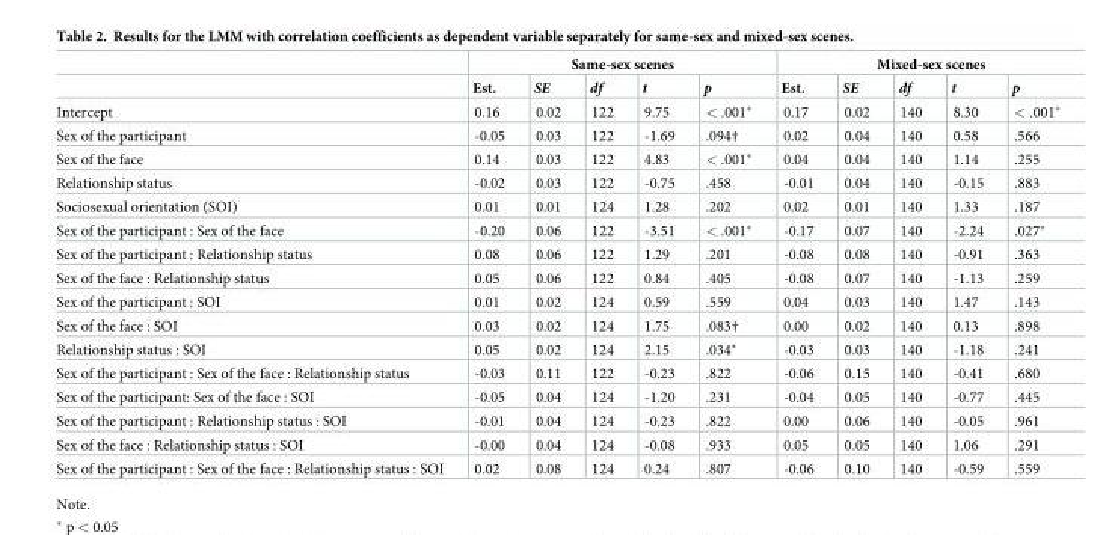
<table><thead><tr><td rowspan="2"></td><td colspan="5">Same-sex scenes</td><td colspan="5">Mixed-sex scenes</td></tr><tr><td>Est.</td><td>SE</td><td>df</td><td>t</td><td>p</td><td>Est.</td><td>SE</td><td>df</td><td>t</td><td>p</td></tr></thead><tbody><tr><td>Intercept</td><td>0.16</td><td>0.02</td><td>122</td><td>9.75</td><td>&lt; .001*</td><td>0.17</td><td>0.02</td><td>140</td><td>8.30</td><td>&lt; .001*</td></tr><tr><td>Sex of the participant</td><td>-0.05</td><td>0.03</td><td>122</td><td>-1.69</td><td>.094†</td><td>0.02</td><td>0.04</td><td>140</td><td>0.58</td><td>.566</td></tr><tr><td>Sex of the face</td><td>0.14</td><td>0.03</td><td>122</td><td>4.83</td><td>&lt; .001*</td><td>0.04</td><td>0.04</td><td>140</td><td>1.14</td><td>.255</td></tr><tr><td>Relationship status</td><td>-0.02</td><td>0.03</td><td>122</td><td>-0.75</td><td>.458</td><td>-0.01</td><td>0.04</td><td>140</td><td>-0.15</td><td>.883</td></tr><tr><td>Sociosexual orientation (SOI)</td><td>0.01</td><td>0.01</td><td>124</td><td>1.28</td><td>.202</td><td>0.02</td><td>0.01</td><td>140</td><td>1.33</td><td>.187</td></tr><tr><td>Sex of the participant : Sex of the face</td><td>-0.20</td><td>0.06</td><td>122</td><td>-3.51</td><td>&lt; .001*</td><td>-0.17</td><td>0.07</td><td>140</td><td>-2.24</td><td>.027*</td></tr><tr><td>Sex of the participant : Relationship status</td><td>0.08</td><td>0.06</td><td>122</td><td>1.29</td><td>.201</td><td>-0.08</td><td>0.08</td><td>140</td><td>-0.91</td><td>.363</td></tr><tr><td>Sex of the face : Relationship status</td><td>0.05</td><td>0.06</td><td>122</td><td>0.84</td><td>.405</td><td>-0.08</td><td>0.07</td><td>140</td><td>-1.13</td><td>.259</td></tr><tr><td>Sex of the participant : SOI</td><td>0.01</td><td>0.02</td><td>124</td><td>0.59</td><td>.559</td><td>0.04</td><td>0.03</td><td>140</td><td>1.47</td><td>.143</td></tr><tr><td>Sex of the face : SOI</td><td>0.03</td><td>0.02</td><td>124</td><td>1.75</td><td>.083†</td><td>0.00</td><td>0.02</td><td>140</td><td>0.13</td><td>.898</td></tr><tr><td>Relationship status : SOI</td><td>0.05</td><td>0.02</td><td>124</td><td>2.15</td><td>.034*</td><td>-0.03</td><td>0.03</td><td>140</td><td>-1.18</td><td>.241</td></tr><tr><td>Sex of the participant : Sex of the face : Relationship status</td><td>-0.03</td><td>0.11</td><td>122</td><td>-0.23</td><td>.822</td><td>-0.06</td><td>0.15</td><td>140</td><td>-0.41</td><td>.680</td></tr><tr><td>Sex of the participant: Sex of the face : SOI</td><td>-0.05</td><td>0.04</td><td>124</td><td>-1.20</td><td>.231</td><td>-0.04</td><td>0.05</td><td>140</td><td>-0.77</td><td>.445</td></tr><tr><td>Sex of the participant : Relationship status : SOI</td><td>-0.01</td><td>0.04</td><td>124</td><td>-0.23</td><td>.822</td><td>0.00</td><td>0.06</td><td>140</td><td>-0.05</td><td>.961</td></tr><tr><td>Sex of the face : Relationship status : SOI</td><td>-0.00</td><td>0.04</td><td>124</td><td>-0.08</td><td>.933</td><td>0.05</td><td>0.05</td><td>140</td><td>1.06</td><td>.291</td></tr><tr><td>Sex of the participant : Sex of the face : Relationship status : SOI</td><td>0.02</td><td>0.08</td><td>124</td><td>0.24</td><td>.807</td><td>-0.06</td><td>0.10</td><td>140</td><td>-0.59</td><td>.559</td></tr></tbody></table>